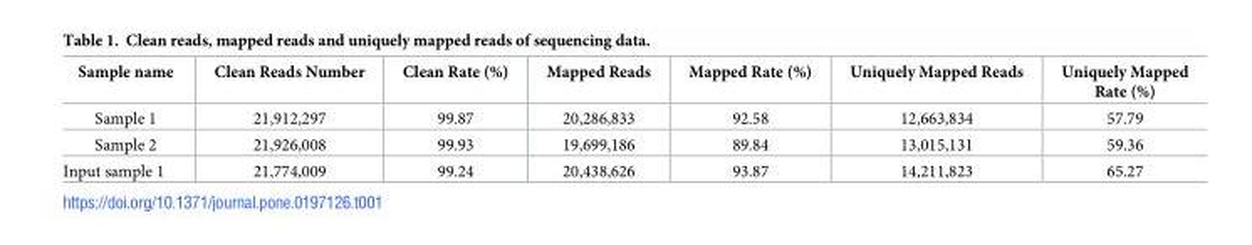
<table><thead><tr><td>Sample name</td><td>Clean Reads Number</td><td>Clean Rate (%)</td><td>Mapped Reads</td><td>Mapped Rate (%)</td><td>Uniquely Mapped Reads</td><td>Uniquely Mapped Rate (%)</td></tr></thead><tbody><tr><td>Sample 1</td><td>21,912,297</td><td>99.87</td><td>20,286,833</td><td>92.58</td><td>12,663,834</td><td>57.79</td></tr><tr><td>Sample 2</td><td>21,926,008</td><td>99.93</td><td>19,699,186</td><td>89.84</td><td>13,015,131</td><td>59.36</td></tr><tr><td>Input sample 1</td><td>21,774,009</td><td>99.24</td><td>20,438,626</td><td>93.87</td><td>14,211,823</td><td>65.27</td></tr></tbody></table>